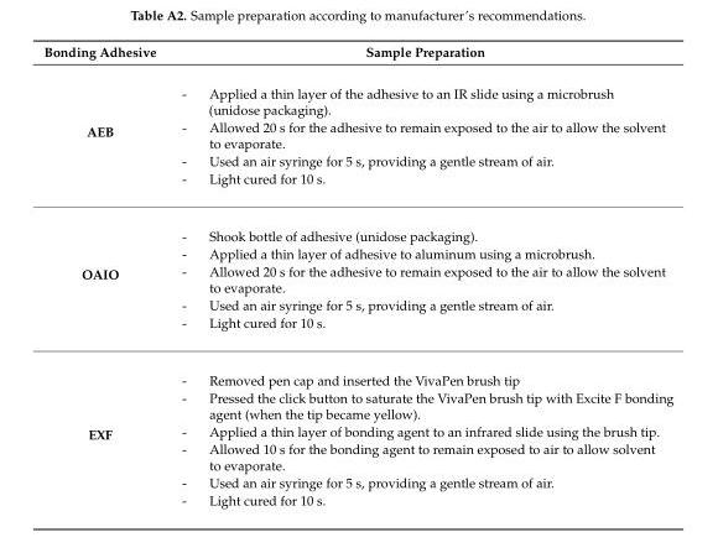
<table><thead><tr><td>Bonding Adhesive</td><td>Sample Preparation</td></tr></thead><tbody><tr><td>AEB</td><td>- Applied a thin layer of the adhesive to an IR slide using a microbrush (unidose packaging). - Allowed 20 s for the adhesive to remain exposed to the air to allow the solvent to evaporate. - Used an air syringe for 5 s, providing a gentle stream of air. - Light cured for 10 s.</td></tr><tr><td>OAIO</td><td>- Shook bottle of adhesive (unidose packaging). - Applied a thin layer of adhesive to aluminum using a microbrush. - Allowed 20 s for the adhesive to remain exposed to the air to allow the solvent to evaporate. - Used an air syringe for 5 s, providing a gentle stream of air. - Light cured for 10 s.</td></tr><tr><td>EXF</td><td>- Removed pen cap and inserted the VivaPen brush tip - Pressed the click button to saturate the VivaPen brush tip with Excite F bonding agent (when the tip became yellow). - Applied a thin layer of bonding agent to an infrared slide using the brush tip. - Allowed 10 s for the bonding agent to remain exposed to air to allow solvent to evaporate. - Used an air syringe for 5 s, providing a gentle stream of air. - Light cured for 10 s.</td></tr></tbody></table>